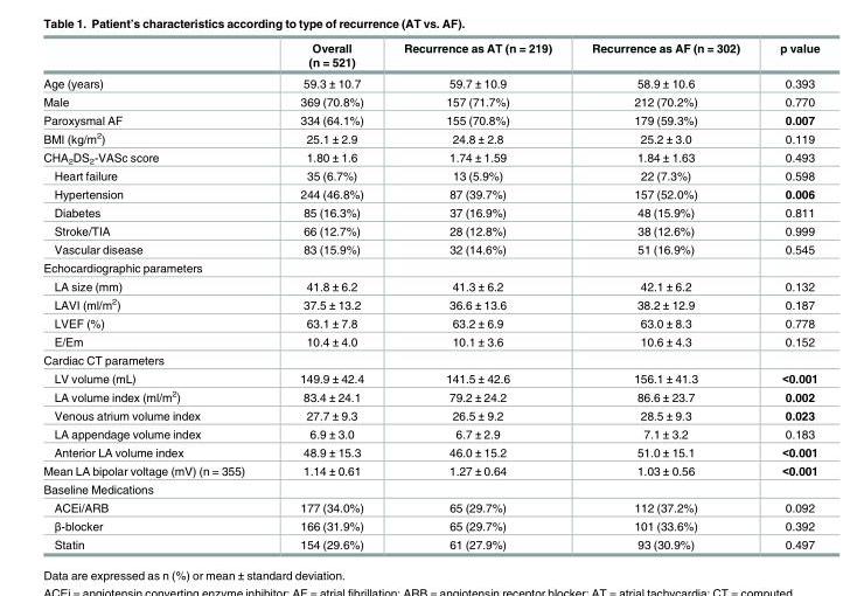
<table><thead><tr><td></td><td>Overall (n = 521)</td><td>Recurrence as AT (n = 219)</td><td>Recurrence as AF (n = 302)</td><td>p value</td></tr></thead><tbody><tr><td>Age (years)</td><td>59.3 ± 10.7</td><td>59.7 ± 10.9</td><td>58.9 ± 10.6</td><td>0.393</td></tr><tr><td>Male</td><td>369 (70.8%)</td><td>157 (71.7%)</td><td>212 (70.2%)</td><td>0.770</td></tr><tr><td>Paroxysmal AF</td><td>334 (64.1%)</td><td>155 (70.8%)</td><td>179 (59.3%)</td><td>0.007</td></tr><tr><td>BMI (kg/m<sup>2</sup>)</td><td>25.1 ± 2.9</td><td>24.8 ± 2.8</td><td>25.2 ± 3.0</td><td>0.119</td></tr><tr><td>CHA<sub>2</sub>DS<sub>2</sub>-VASc score</td><td>1.80 ± 1.6</td><td>1.74 ± 1.59</td><td>1.84 ± 1.63</td><td>0.493</td></tr><tr><td>Heart failure</td><td>35 (6.7%)</td><td>13 (5.9%)</td><td>22 (7.3%)</td><td>0.598</td></tr><tr><td>Hypertension</td><td>244 (46.8%)</td><td>87 (39.7%)</td><td>157 (52.0%)</td><td>0.006</td></tr><tr><td>Diabetes</td><td>85 (16.3%)</td><td>37 (16.9%)</td><td>48 (15.9%)</td><td>0.811</td></tr><tr><td>Stroke/TIA</td><td>66 (12.7%)</td><td>28 (12.8%)</td><td>38 (12.6%)</td><td>0.999</td></tr><tr><td>Vascular disease</td><td>83 (15.9%)</td><td>32 (14.6%)</td><td>51 (16.9%)</td><td>0.545</td></tr><tr><td colspan="5">Echocardiographic parameters</td></tr><tr><td>LA size (mm)</td><td>41.8 ± 6.2</td><td>41.3 ± 6.2</td><td>42.1 ± 6.2</td><td>0.132</td></tr><tr><td>LAVI (ml/m<sup>2</sup>)</td><td>37.5 ± 13.2</td><td>36.6 ± 13.6</td><td>38.2 ± 12.9</td><td>0.187</td></tr><tr><td>LVEF (%)</td><td>63.1 ± 7.8</td><td>63.2 ± 6.9</td><td>63.0 ± 8.3</td><td>0.778</td></tr><tr><td>E/Em</td><td>10.4 ± 4.0</td><td>10.1 ± 3.6</td><td>10.6 ± 4.3</td><td>0.152</td></tr><tr><td colspan="5">Cardiac CT parameters</td></tr><tr><td>LV volume (mL)</td><td>149.9 ± 42.4</td><td>141.5 ± 42.6</td><td>156.1 ± 41.3</td><td>&lt;0.001</td></tr><tr><td>LA volume index (ml/m<sup>2</sup>)</td><td>83.4 ± 24.1</td><td>79.2 ± 24.2</td><td>86.6 ± 23.7</td><td>0.002</td></tr><tr><td>Venous atrium volume index</td><td>27.7 ± 9.3</td><td>26.5 ± 9.2</td><td>28.5 ± 9.3</td><td>0.023</td></tr><tr><td>LA appendage volume index</td><td>6.9 ± 3.0</td><td>6.7 ± 2.9</td><td>7.1 ± 3.2</td><td>0.183</td></tr><tr><td>Anterior LA volume index</td><td>48.9 ± 15.3</td><td>46.0 ± 15.2</td><td>51.0 ± 15.1</td><td>&lt;0.001</td></tr><tr><td>Mean LA bipolar voltage (mV) (n = 355)</td><td>1.14 ± 0.61</td><td>1.27 ± 0.64</td><td>1.03 ± 0.56</td><td>&lt;0.001</td></tr><tr><td colspan="5">Baseline Medications</td></tr><tr><td>ACEi/ARB</td><td>177 (34.0%)</td><td>65 (29.7%)</td><td>112 (37.2%)</td><td>0.092</td></tr><tr><td>β-blocker</td><td>166 (31.9%)</td><td>65 (29.7%)</td><td>101 (33.6%)</td><td>0.392</td></tr><tr><td>Statin</td><td>154 (29.6%)</td><td>61 (27.9%)</td><td>93 (30.9%)</td><td>0.497</td></tr></tbody></table>